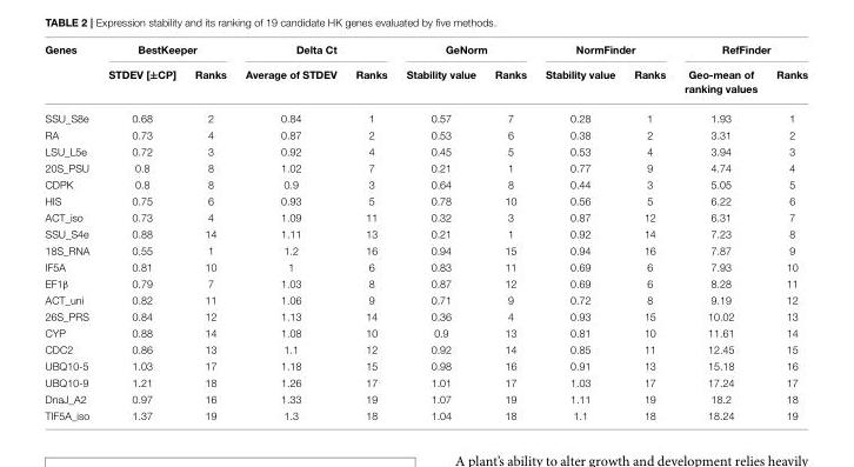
<table><thead><tr><td rowspan="2">Genes</td><td colspan="2">BestKeeper</td><td colspan="2">Delta Ct</td><td colspan="2">GeNorm</td><td colspan="2">NormFinder</td><td colspan="2">RefFinder</td></tr><tr><td>STDEV [±CP]</td><td>Ranks</td><td>Average of STDEV</td><td>Ranks</td><td>Stability value</td><td>Ranks</td><td>Stability value</td><td>Ranks</td><td>Geo-mean of ranking values</td><td>Ranks</td></tr></thead><tbody><tr><td>SSU_S8e</td><td>0.68</td><td>2</td><td>0.84</td><td>1</td><td>0.57</td><td>7</td><td>0.28</td><td>1</td><td>1.93</td><td>1</td></tr><tr><td>RA</td><td>0.73</td><td>4</td><td>0.87</td><td>2</td><td>0.53</td><td>6</td><td>0.38</td><td>2</td><td>3.31</td><td>2</td></tr><tr><td>LSU_L5e</td><td>0.72</td><td>3</td><td>0.92</td><td>4</td><td>0.45</td><td>5</td><td>0.53</td><td>4</td><td>3.94</td><td>3</td></tr><tr><td>20S_PSU</td><td>0.8</td><td>8</td><td>1.02</td><td>7</td><td>0.21</td><td>1</td><td>0.77</td><td>9</td><td>4.74</td><td>4</td></tr><tr><td>CDPK</td><td>0.8</td><td>8</td><td>0.9</td><td>3</td><td>0.64</td><td>8</td><td>0.44</td><td>3</td><td>5.05</td><td>5</td></tr><tr><td>HIS</td><td>0.75</td><td>6</td><td>0.93</td><td>5</td><td>0.78</td><td>10</td><td>0.56</td><td>5</td><td>6.22</td><td>6</td></tr><tr><td>ACT_iso</td><td>0.73</td><td>4</td><td>1.09</td><td>11</td><td>0.32</td><td>3</td><td>0.87</td><td>12</td><td>6.31</td><td>7</td></tr><tr><td>SSU_S4e</td><td>0.88</td><td>14</td><td>1.11</td><td>13</td><td>0.21</td><td>1</td><td>0.92</td><td>14</td><td>7.23</td><td>8</td></tr><tr><td>18S_RNA</td><td>0.55</td><td>1</td><td>1.2</td><td>16</td><td>0.94</td><td>15</td><td>0.94</td><td>16</td><td>7.87</td><td>9</td></tr><tr><td>IF5A</td><td>0.81</td><td>10</td><td>1</td><td>6</td><td>0.83</td><td>11</td><td>0.69</td><td>6</td><td>7.93</td><td>10</td></tr><tr><td>EF1β</td><td>0.79</td><td>7</td><td>1.03</td><td>8</td><td>0.87</td><td>12</td><td>0.69</td><td>6</td><td>8.28</td><td>11</td></tr><tr><td>ACT_uni</td><td>0.82</td><td>11</td><td>1.06</td><td>9</td><td>0.71</td><td>9</td><td>0.72</td><td>8</td><td>9.19</td><td>12</td></tr><tr><td>26S_PRS</td><td>0.84</td><td>12</td><td>1.13</td><td>14</td><td>0.36</td><td>4</td><td>0.93</td><td>15</td><td>10.02</td><td>13</td></tr><tr><td>CYP</td><td>0.88</td><td>14</td><td>1.08</td><td>10</td><td>0.9</td><td>13</td><td>0.81</td><td>10</td><td>11.61</td><td>14</td></tr><tr><td>CDC2</td><td>0.86</td><td>13</td><td>1.1</td><td>12</td><td>0.92</td><td>14</td><td>0.85</td><td>11</td><td>12.45</td><td>15</td></tr><tr><td>UBQ10-5</td><td>1.03</td><td>17</td><td>1.18</td><td>15</td><td>0.98</td><td>16</td><td>0.91</td><td>13</td><td>15.18</td><td>16</td></tr><tr><td>UBQ10-9</td><td>1.21</td><td>18</td><td>1.26</td><td>17</td><td>1.01</td><td>17</td><td>1.03</td><td>17</td><td>17.24</td><td>17</td></tr><tr><td>DnaJ_A2</td><td>0.97</td><td>16</td><td>1.33</td><td>19</td><td>1.07</td><td>19</td><td>1.11</td><td>19</td><td>18.2</td><td>18</td></tr><tr><td>TIF5A_iso</td><td>1.37</td><td>19</td><td>1.3</td><td>18</td><td>1.04</td><td>18</td><td>1.1</td><td>18</td><td>18.24</td><td>19</td></tr></tbody></table>